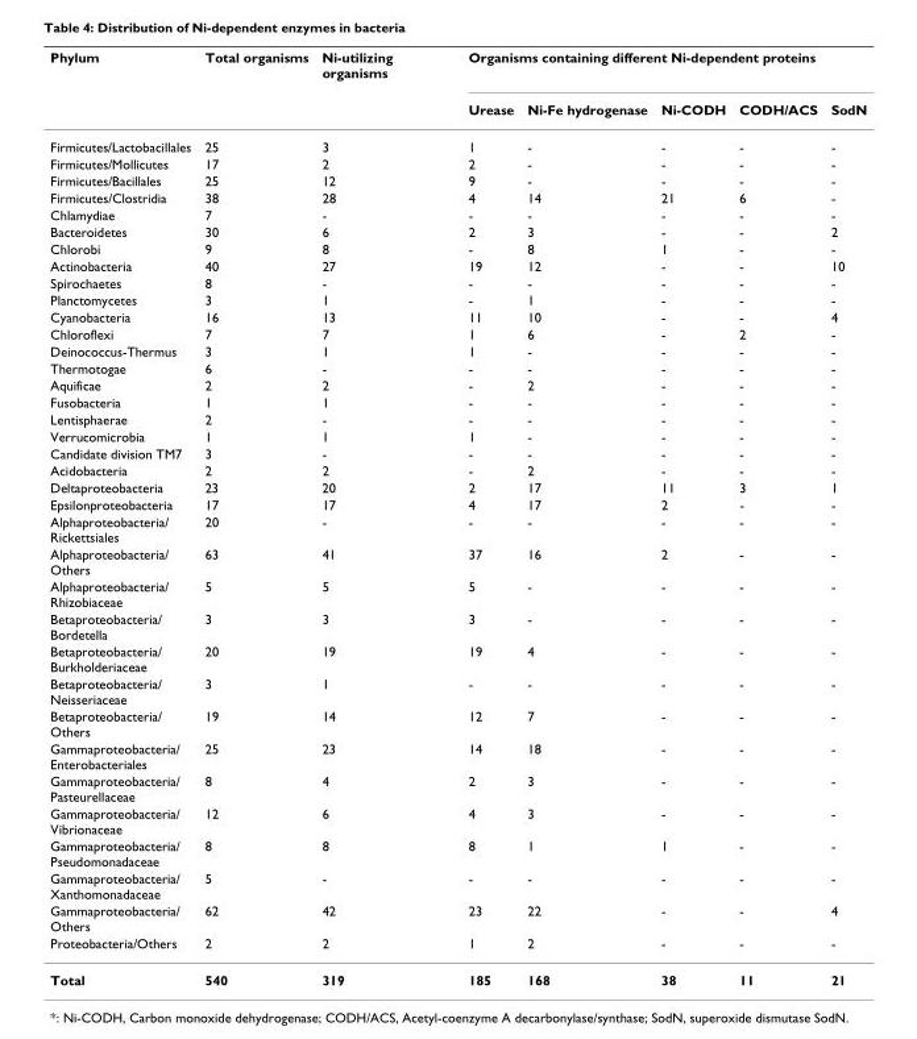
<table><thead><tr><td rowspan="2">Phylum</td><td rowspan="2">Total organisms</td><td rowspan="2">Ni-utilizing organisms</td><td colspan="5">Organisms containing different Ni-dependent proteins</td></tr><tr><td>Urease</td><td>Ni-Fe hydrogenase</td><td>Ni-CODH</td><td>CODH/ACS</td><td>SodN</td></tr></thead><tbody><tr><td>Firmicutes/Lactobacillales</td><td>25</td><td>3</td><td>1</td><td>-</td><td>-</td><td>-</td><td>-</td></tr><tr><td>Firmicutes/Mollicutes</td><td>17</td><td>2</td><td>2</td><td>-</td><td>-</td><td>-</td><td>-</td></tr><tr><td>Firmicutes/Bacillales</td><td>25</td><td>12</td><td>9</td><td>-</td><td>-</td><td>-</td><td>-</td></tr><tr><td>Firmicutes/Clostridia</td><td>38</td><td>28</td><td>4</td><td>14</td><td>21</td><td>6</td><td>-</td></tr><tr><td>Chlamydiae</td><td>7</td><td>-</td><td>-</td><td>-</td><td>-</td><td>-</td><td>-</td></tr><tr><td>Bacteroidetes</td><td>30</td><td>6</td><td>2</td><td>3</td><td>-</td><td>-</td><td>2</td></tr><tr><td>Chlorobi</td><td>9</td><td>8</td><td>-</td><td>8</td><td>1</td><td>-</td><td>-</td></tr><tr><td>Actinobacteria</td><td>40</td><td>27</td><td>19</td><td>12</td><td>-</td><td>-</td><td>10</td></tr><tr><td>Spirochaetes</td><td>8</td><td>-</td><td>-</td><td>-</td><td>-</td><td>-</td><td>-</td></tr><tr><td>Planctomycetes</td><td>3</td><td>1</td><td>-</td><td>1</td><td>-</td><td>-</td><td>-</td></tr><tr><td>Cyanobacteria</td><td>16</td><td>13</td><td>11</td><td>10</td><td>-</td><td>-</td><td>4</td></tr><tr><td>Chloroflexi</td><td>7</td><td>7</td><td>1</td><td>6</td><td>-</td><td>2</td><td>-</td></tr><tr><td>Deinococcus-Thermus</td><td>3</td><td>1</td><td>1</td><td>-</td><td>-</td><td>-</td><td>-</td></tr><tr><td>Thermotogae</td><td>6</td><td>-</td><td>-</td><td>-</td><td>-</td><td>-</td><td>-</td></tr><tr><td>Aquificae</td><td>2</td><td>2</td><td>-</td><td>2</td><td>-</td><td>-</td><td>-</td></tr><tr><td>Fusobacteria</td><td>1</td><td>1</td><td>-</td><td>-</td><td>-</td><td>-</td><td>-</td></tr><tr><td>Lentisphaerae</td><td>2</td><td>-</td><td>-</td><td>-</td><td>-</td><td>-</td><td>-</td></tr><tr><td>Verrucomicrobia</td><td>1</td><td>1</td><td>1</td><td>-</td><td>-</td><td>-</td><td>-</td></tr><tr><td>Candidate division TM7</td><td>3</td><td>-</td><td>-</td><td>-</td><td>-</td><td>-</td><td>-</td></tr><tr><td>Acidobacteria</td><td>2</td><td>2</td><td>-</td><td>2</td><td>-</td><td>-</td><td>-</td></tr><tr><td>Deltaproteobacteria</td><td>23</td><td>20</td><td>2</td><td>17</td><td>11</td><td>3</td><td>1</td></tr><tr><td>Epsilonproteobacteria</td><td>17</td><td>17</td><td>4</td><td>17</td><td>2</td><td>-</td><td>-</td></tr><tr><td>Alphaproteobacteria/ Rickettsiales</td><td>20</td><td>-</td><td>-</td><td>-</td><td>-</td><td>-</td><td>-</td></tr><tr><td>Alphaproteobacteria/ Others</td><td>63</td><td>41</td><td>37</td><td>16</td><td>2</td><td>-</td><td>-</td></tr><tr><td>Alphaproteobacteria/ Rhizobiaceae</td><td>5</td><td>5</td><td>5</td><td>-</td><td>-</td><td>-</td><td>-</td></tr><tr><td>Betaproteobacteria/ Bordetella</td><td>3</td><td>3</td><td>3</td><td>-</td><td>-</td><td>-</td><td>-</td></tr><tr><td>Betaproteobacteria/ Burkholderiaceae</td><td>20</td><td>19</td><td>19</td><td>4</td><td>-</td><td>-</td><td>-</td></tr><tr><td>Betaproteobacteria/ Neisseriaceae</td><td>3</td><td>1</td><td>-</td><td>-</td><td>-</td><td>-</td><td>-</td></tr><tr><td>Betaproteobacteria/ Others</td><td>19</td><td>14</td><td>12</td><td>7</td><td>-</td><td>-</td><td>-</td></tr><tr><td>Gammaproteobacteria/ Enterobacteriales</td><td>25</td><td>23</td><td>14</td><td>18</td><td>-</td><td>-</td><td>-</td></tr><tr><td>Gammaproteobacteria/ Pasteurellaceae</td><td>8</td><td>4</td><td>2</td><td>3</td><td>-</td><td>-</td><td>-</td></tr><tr><td>Gammaproteobacteria/ Vibrionaceae</td><td>12</td><td>6</td><td>4</td><td>3</td><td>-</td><td>-</td><td>-</td></tr><tr><td>Gammaproteobacteria/ Pseudomonadaceae</td><td>8</td><td>8</td><td>8</td><td>1</td><td>1</td><td>-</td><td>-</td></tr><tr><td>Gammaproteobacteria/ Xanthomonadaceae</td><td>5</td><td>-</td><td>-</td><td>-</td><td>-</td><td>-</td><td>-</td></tr><tr><td>Gammaproteobacteria/ Others</td><td>62</td><td>42</td><td>23</td><td>22</td><td>-</td><td>-</td><td>4</td></tr><tr><td>Proteobacteria/Others</td><td>2</td><td>2</td><td>1</td><td>2</td><td>-</td><td>-</td><td>-</td></tr><tr><td>Total</td><td>540</td><td>319</td><td>185</td><td>168</td><td>38</td><td>11</td><td>21</td></tr></tbody></table>